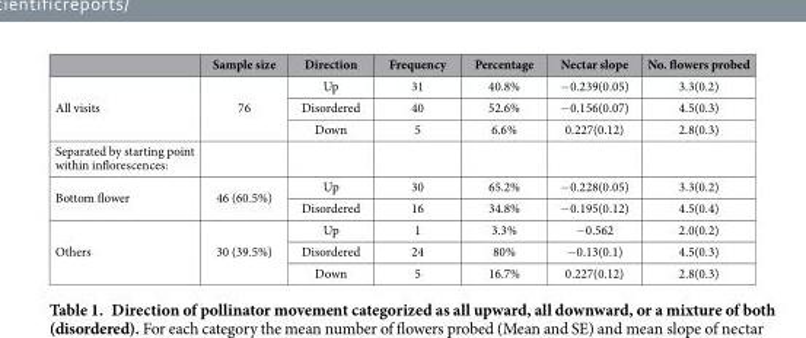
<table><thead><tr><td></td><td>Sample size</td><td>Direction</td><td>Frequency</td><td>Percentage</td><td>Nectar slope</td><td>No. flowers probed</td></tr></thead><tbody><tr><td rowspan="3">All visits</td><td rowspan="3">76</td><td>Up</td><td>31</td><td>40.8%</td><td>− 0.239(0.05)</td><td>3.3(0.2)</td></tr><tr><td>Disordered</td><td>40</td><td>52.6%</td><td>− 0.156(0.07)</td><td>4.5(0.3)</td></tr><tr><td>Down</td><td>5</td><td>6.6%</td><td>0.227(0.12)</td><td>2.8(0.3)</td></tr><tr><td colspan="7">Separated by starting point within inflorescences:</td></tr><tr><td rowspan="2">Bottom flower</td><td rowspan="2">46 (60.5%)</td><td>Up</td><td>30</td><td>65.2%</td><td>− 0.228(0.05)</td><td>3.3(0.2)</td></tr><tr><td>Disordered</td><td>16</td><td>34.8%</td><td>− 0.195(0.12)</td><td>4.5(0.4)</td></tr><tr><td rowspan="3">Others</td><td rowspan="3">30 (39.5%)</td><td>Up</td><td>1</td><td>3.3%</td><td>− 0.562</td><td>2.0(0.2)</td></tr><tr><td>Disordered</td><td>24</td><td>80%</td><td>− 0.13(0.1)</td><td>4.5(0.3)</td></tr><tr><td>Down</td><td>5</td><td>16.7%</td><td>0.227(0.12)</td><td>2.8(0.3)</td></tr></tbody></table>